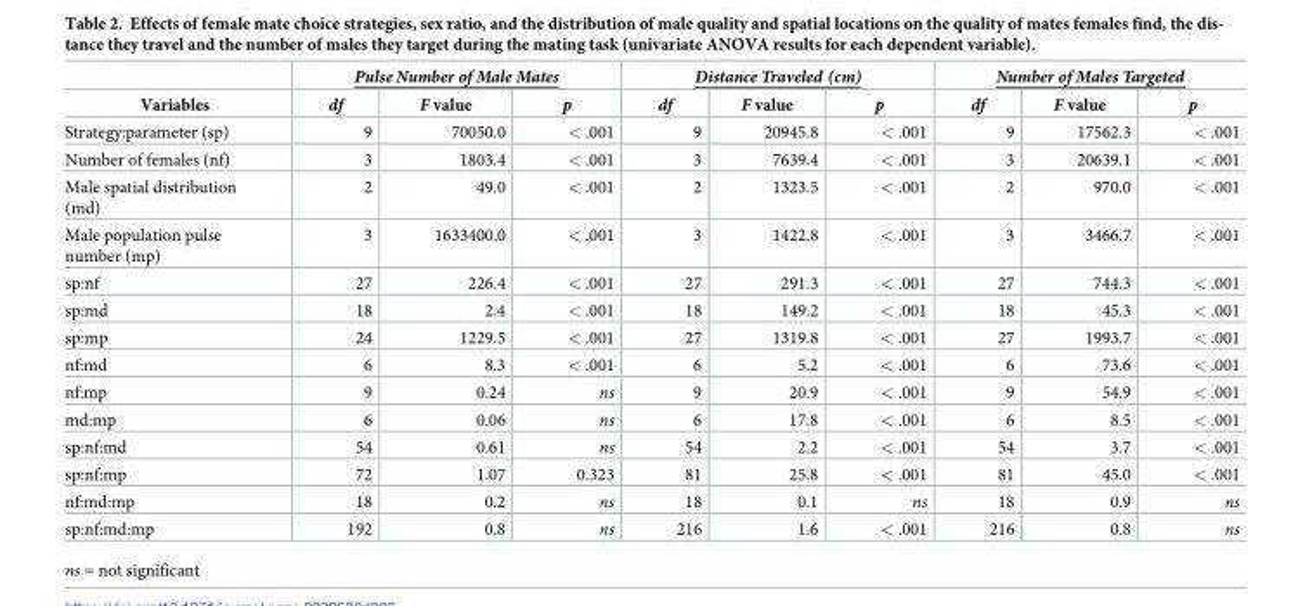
<table><thead><tr><td rowspan="2">Variables</td><td colspan="3">Pulse Number of Male Mates</td><td colspan="3">Distance Traveled (cm)</td><td colspan="3">Number of Males Targeted</td></tr><tr><td>df</td><td>F value</td><td>p</td><td>df</td><td>F value</td><td>p</td><td>df</td><td>F value</td><td>p</td></tr></thead><tbody><tr><td>Strategy:parameter (sp)</td><td>9</td><td>70050.0</td><td>&lt; .001</td><td>9</td><td>20945.8</td><td>&lt; .001</td><td>9</td><td>17562.3</td><td>&lt; .001</td></tr><tr><td>Number of females (nf)</td><td>3</td><td>1803.4</td><td>&lt; .001</td><td>3</td><td>7639.4</td><td>&lt; .001</td><td>3</td><td>20639.1</td><td>&lt; .001</td></tr><tr><td>Male spatial distribution (md)</td><td>2</td><td>49.0</td><td>&lt; .001</td><td>2</td><td>1323.5</td><td>&lt; .001</td><td>2</td><td>970.0</td><td>&lt; .001</td></tr><tr><td>Male population pulse number (mp)</td><td>3</td><td>1633400.0</td><td>&lt; .001</td><td>3</td><td>1422.8</td><td>&lt; .001</td><td>3</td><td>3466.7</td><td>&lt; .001</td></tr><tr><td>sp:nf</td><td>27</td><td>226.4</td><td>&lt; .001</td><td>27</td><td>291.3</td><td>&lt; .001</td><td>27</td><td>744.3</td><td>&lt; .001</td></tr><tr><td>sp:md</td><td>18</td><td>2.4</td><td>&lt; .001</td><td>18</td><td>149.2</td><td>&lt; .001</td><td>18</td><td>45.3</td><td>&lt; .001</td></tr><tr><td>sp:mp</td><td>24</td><td>1229.5</td><td>&lt; .001</td><td>27</td><td>1319.8</td><td>&lt; .001</td><td>27</td><td>1993.7</td><td>&lt; .001</td></tr><tr><td>nf:md</td><td>6</td><td>8.3</td><td>&lt; .001</td><td>6</td><td>5.2</td><td>&lt; .001</td><td>6</td><td>73.6</td><td>&lt; .001</td></tr><tr><td>nf:mp</td><td>9</td><td>0.24</td><td>ns</td><td>9</td><td>20.9</td><td>&lt; .001</td><td>9</td><td>54.9</td><td>&lt; .001</td></tr><tr><td>md:mp</td><td>6</td><td>0.06</td><td>ns</td><td>6</td><td>17.8</td><td>&lt; .001</td><td>6</td><td>8.5</td><td>&lt; .001</td></tr><tr><td>sp:nf:md</td><td>54</td><td>0.61</td><td>ns</td><td>54</td><td>2.2</td><td>&lt; .001</td><td>54</td><td>3.7</td><td>&lt; .001</td></tr><tr><td>sp:nf:mp</td><td>72</td><td>1.07</td><td>0.323</td><td>81</td><td>25.8</td><td>&lt; .001</td><td>81</td><td>45.0</td><td>&lt; .001</td></tr><tr><td>nf:md:mp</td><td>18</td><td>0.2</td><td>ns</td><td>18</td><td>0.1</td><td>ns</td><td>18</td><td>0.9</td><td>ns</td></tr><tr><td>sp:nf:md:mp</td><td>192</td><td>0.8</td><td>ns</td><td>216</td><td>1.6</td><td>&lt; .001</td><td>216</td><td>0.8</td><td>ns</td></tr></tbody></table>